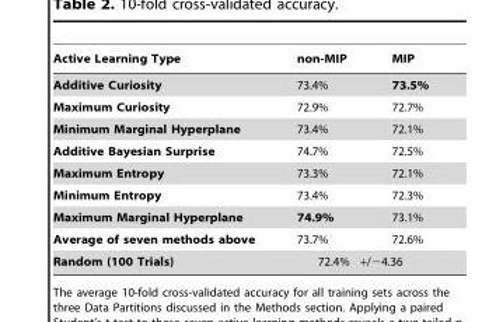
<table><thead><tr><td>Active Learning Type</td><td>non-MIP</td><td>MIP</td></tr></thead><tbody><tr><td>Additive Curiosity</td><td>73.4%</td><td>73.5%</td></tr><tr><td>Maximum Curiosity</td><td>72.9%</td><td>72.7%</td></tr><tr><td>Minimum Marginal Hyperplane</td><td>73.4%</td><td>72.1%</td></tr><tr><td>Additive Bayesian Surprise</td><td>74.7%</td><td>72.5%</td></tr><tr><td>Maximum Entropy</td><td>73.3%</td><td>72.1%</td></tr><tr><td>Minimum Entropy</td><td>73.4%</td><td>72.3%</td></tr><tr><td>Maximum Marginal Hyperplane</td><td>74.9%</td><td>73.1%</td></tr><tr><td>Average of seven methods above</td><td>73.7%</td><td>72.6%</td></tr><tr><td>Random (100 Trials)</td><td>72.4%</td><td>+/−4.36</td></tr></tbody></table>